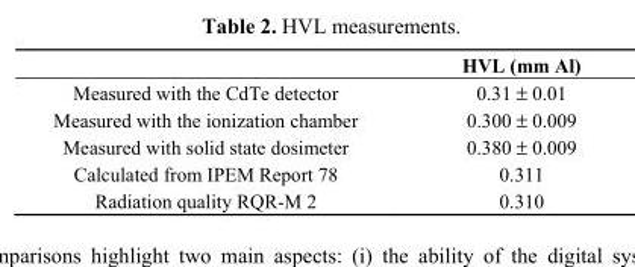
<table><thead><tr><td></td><td>HVL (mm Al)</td></tr></thead><tbody><tr><td>Measured with the CdTe detector</td><td>0.31 ± 0.01</td></tr><tr><td>Measured with the ionization chamber</td><td>0.300 ± 0.009</td></tr><tr><td>Measured with solid state dosimeter</td><td>0.380 ± 0.009</td></tr><tr><td>Calculated from IPEM Report 78</td><td>0.311</td></tr><tr><td>Radiation quality RQR-M 2</td><td>0.310</td></tr></tbody></table>